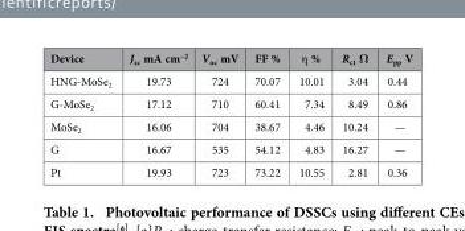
<table><thead><tr><td>Device</td><td>J<sub>sc</sub> mA cm<sup>–2</sup></td><td>V<sub>oc</sub> mV</td><td>FF %</td><td>η %</td><td>R<sub>ct</sub> Ω</td><td>E<sub>pp</sub> V</td></tr></thead><tbody><tr><td>HNG-MoSe<sub>2</sub></td><td>19.73</td><td>724</td><td>70.07</td><td>10.01</td><td>3.04</td><td>0.44</td></tr><tr><td>G-MoSe<sub>2</sub></td><td>17.12</td><td>710</td><td>60.41</td><td>7.34</td><td>8.49</td><td>0.86</td></tr><tr><td>MoSe<sub>2</sub></td><td>16.06</td><td>704</td><td>38.67</td><td>4.46</td><td>10.24</td><td>—</td></tr><tr><td>G</td><td>16.67</td><td>535</td><td>54.12</td><td>4.83</td><td>16.27</td><td>—</td></tr><tr><td>Pt</td><td>19.93</td><td>723</td><td>73.22</td><td>10.55</td><td>2.81</td><td>0.36</td></tr></tbody></table>